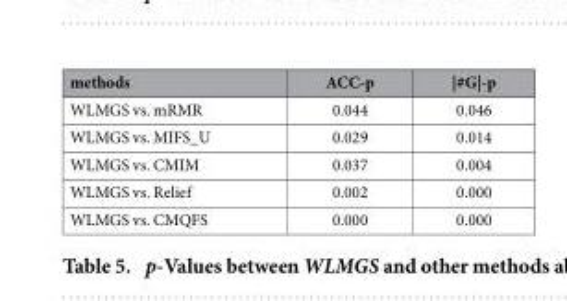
<table><thead><tr><td>methods</td><td>ACC-p</td><td>|#G|-p</td></tr></thead><tbody><tr><td>WLMGS vs. mRMR</td><td>0.044</td><td>0.046</td></tr><tr><td>WLMGS vs. MIFS_U</td><td>0.029</td><td>0.014</td></tr><tr><td>WLMGS vs. CMIM</td><td>0.037</td><td>0.004</td></tr><tr><td>WLMGS vs. Relief</td><td>0.002</td><td>0.000</td></tr><tr><td>WLMGS vs. CMQFS</td><td>0.000</td><td>0.000</td></tr></tbody></table>